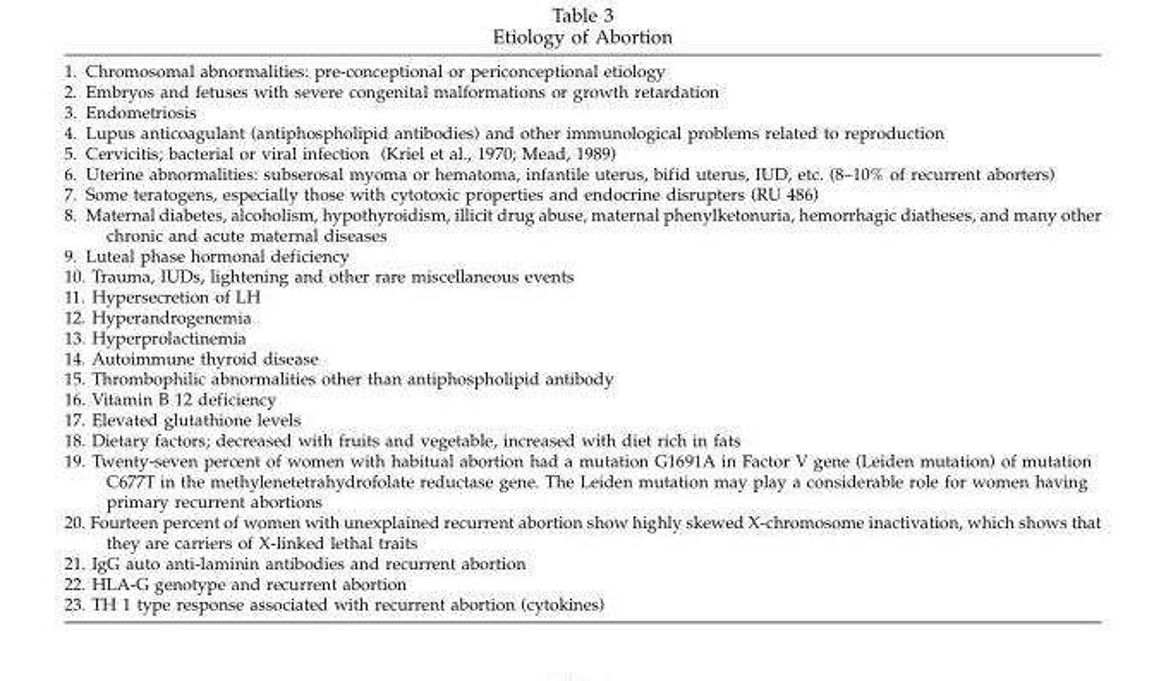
<table><tbody><tr><td>1.</td><td>Chromosomal abnormalities: pre-conceptional or periconceptional etiology</td></tr><tr><td>2.</td><td>Embryos and fetuses with severe congenital malformations or growth retardation</td></tr><tr><td>3.</td><td>Endometriosis</td></tr><tr><td>4.</td><td>Lupus anticoagulant (antiphospholipid antibodies) and other immunological problems related to reproduction</td></tr><tr><td>5.</td><td>Cervicitis; bacterial or viral infection (Kriel et al., 1970; Mead, 1989)</td></tr><tr><td>6.</td><td>Uterine abnormalities: subserosal myoma or hematoma, infantile uterus, bifid uterus, IUD, etc. (8–10% of recurrent aborters)</td></tr><tr><td>7.</td><td>Some teratogens, especially those with cytotoxic properties and endocrine disrupters (RU 486)</td></tr><tr><td>8.</td><td>Maternal diabetes, alcoholism, hypothyroidism, illicit drug abuse, maternal phenylketonuria, hemorrhagic diatheses, and many other chronic and acute maternal diseases</td></tr><tr><td>9.</td><td>Luteal phase hormonal deficiency</td></tr><tr><td>10.</td><td>Trauma, IUDs, lightening and other rare miscellaneous events</td></tr><tr><td>11.</td><td>Hypersecretion of LH</td></tr><tr><td>12.</td><td>Hyperandrogenemia</td></tr><tr><td>13.</td><td>Hyperprolactinemia</td></tr><tr><td>14.</td><td>Autoimmune thyroid disease</td></tr><tr><td>15.</td><td>Thrombophilic abnormalities other than antiphospholipid antibody</td></tr><tr><td>16.</td><td>Vitamin B 12 deficiency</td></tr><tr><td>17.</td><td>Elevated glutathione levels</td></tr><tr><td>18.</td><td>Dietary factors; decreased with fruits and vegetable, increased with diet rich in fats</td></tr><tr><td>19.</td><td>Twenty-seven percent of women with habitual abortion had a mutation G1691A in Factor V gene (Leiden mutation) of mutation C677T in the methylenetetrahydrofolate reductase gene. The Leiden mutation may play a considerable role for women having primary recurrent abortions</td></tr><tr><td>20.</td><td>Fourteen percent of women with unexplained recurrent abortion show highly skewed X-chromosome inactivation, which shows that they are carriers of X-linked lethal traits</td></tr><tr><td>21.</td><td>IgG auto anti-laminin antibodies and recurrent abortion</td></tr><tr><td>22.</td><td>HLA-G genotype and recurrent abortion</td></tr><tr><td>23.</td><td>TH 1 type response associated with recurrent abortion (cytokines)</td></tr></tbody></table>